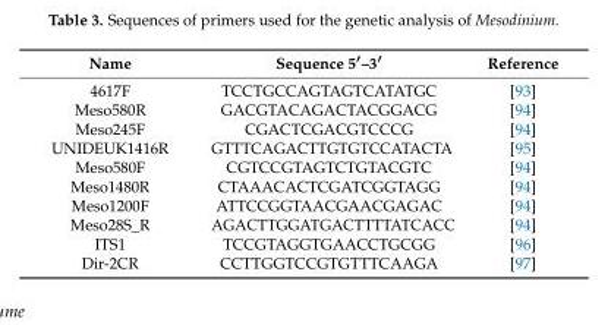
<table><thead><tr><td>Name</td><td>Sequence 5′–3′</td><td>Reference</td></tr></thead><tbody><tr><td>4617F</td><td>TCCTGCCAGTAGTCATATGC</td><td>[93]</td></tr><tr><td>Meso580R</td><td>GACGTACAGACTACGGACG</td><td>[94]</td></tr><tr><td>Meso245F</td><td>CGACTCGACGTCCCG</td><td>[94]</td></tr><tr><td>UNIDEUK1416R</td><td>GTTTCAGACTTGTGTCCATACTA</td><td>[95]</td></tr><tr><td>Meso580F</td><td>CGTCCGTAGTCTGTACGTC</td><td>[94]</td></tr><tr><td>Meso1480R</td><td>CTAAACACTCGATCGGTAGG</td><td>[94]</td></tr><tr><td>Meso1200F</td><td>ATTCCGGTAACGAACGAGAC</td><td>[94]</td></tr><tr><td>Meso28S_R</td><td>AGACTTGGATGACTTTTATCACC</td><td>[94]</td></tr><tr><td>ITS1</td><td>TCCGTAGGTGAACCTGCGG</td><td>[96]</td></tr><tr><td>Dir-2CR</td><td>CCTTGGTCCGTGTTTCAAGA</td><td>[97]</td></tr></tbody></table>